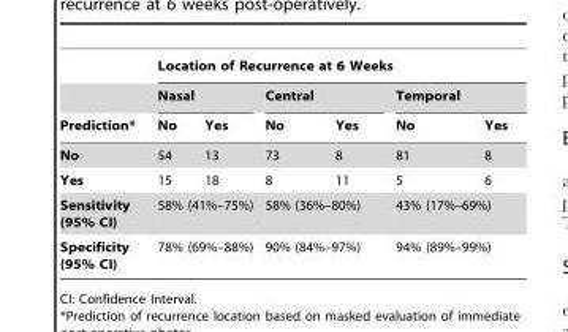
<table><thead><tr><td rowspan="3">Prediction*</td><td colspan="6">Location of Recurrence at 6 Weeks</td></tr><tr><td colspan="2">Nasal</td><td colspan="2">Central</td><td colspan="2">Temporal</td></tr><tr><td>No</td><td>Yes</td><td>No</td><td>Yes</td><td>No</td><td>Yes</td></tr></thead><tbody><tr><td>No</td><td>54</td><td>13</td><td>73</td><td>8</td><td>81</td><td>8</td></tr><tr><td>Yes</td><td>15</td><td>18</td><td>8</td><td>11</td><td>5</td><td>6</td></tr><tr><td>Sensitivity (95% CI)</td><td colspan="2">58% (41%–75%)</td><td colspan="2">58% (36%–80%)</td><td colspan="2">43% (17%–69%)</td></tr><tr><td>Specificity (95% CI)</td><td colspan="2">78% (69%–88%)</td><td colspan="2">90% (84%–97%)</td><td colspan="2">94% (89%–99%)</td></tr></tbody></table>